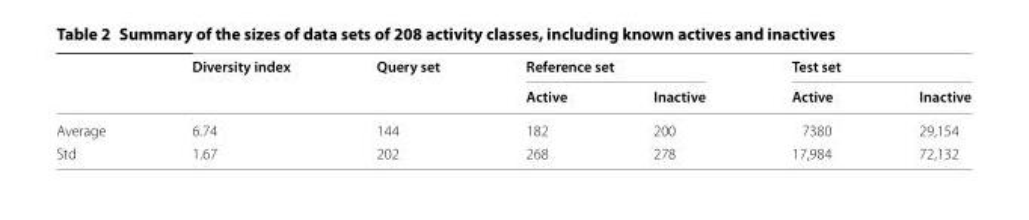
<table><thead><tr><td rowspan="2"></td><td rowspan="2">Diversity index</td><td rowspan="2">Query set</td><td colspan="2">Reference set</td><td colspan="2">Test set</td></tr><tr><td>Active</td><td>Inactive</td><td>Active</td><td>Inactive</td></tr></thead><tbody><tr><td>Average</td><td>6.74</td><td>144</td><td>182</td><td>200</td><td>7380</td><td>29,154</td></tr><tr><td>Std</td><td>1.67</td><td>202</td><td>268</td><td>278</td><td>17,984</td><td>72,132</td></tr></tbody></table>